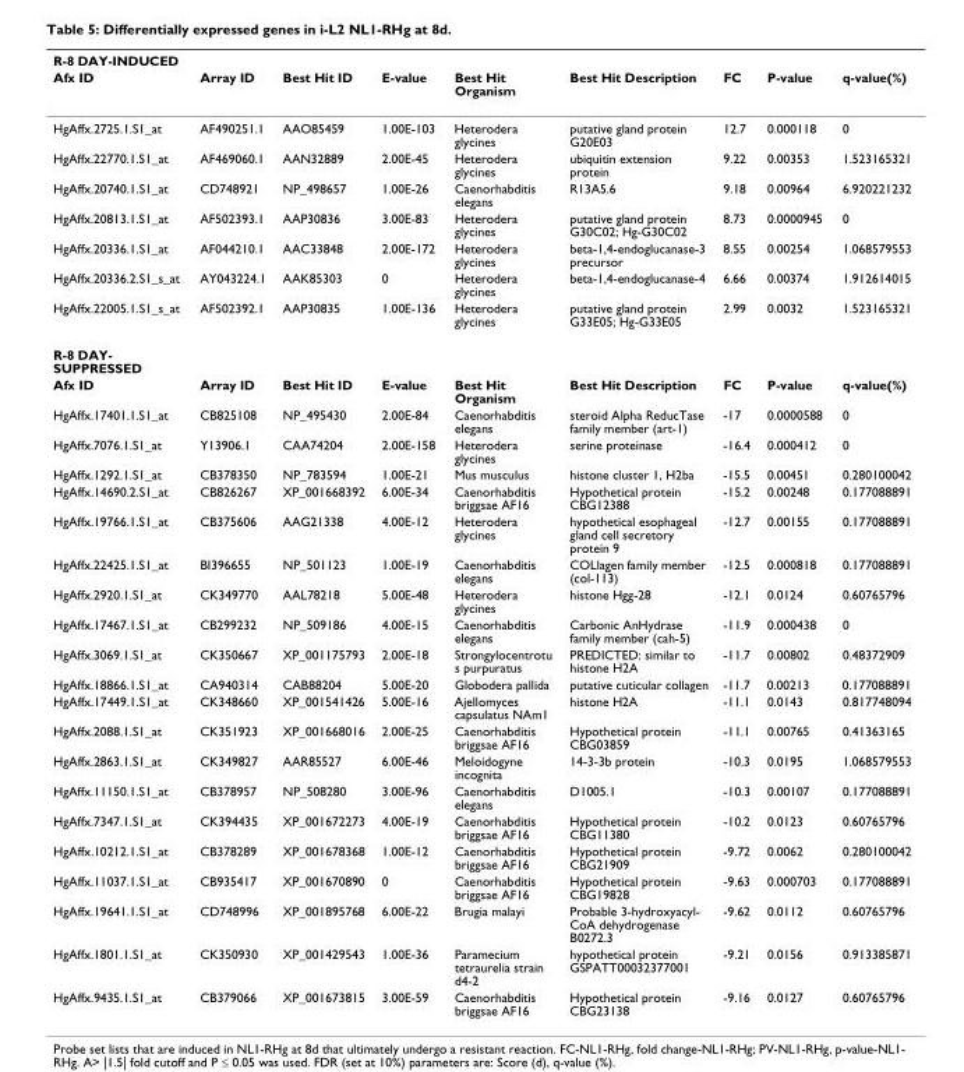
<table><thead><tr><td colspan="9">R-8 DAY-INDUCED</td></tr><tr><td>Afx ID</td><td>Array ID</td><td>Best Hit ID</td><td>E-value</td><td>Best Hit Organism</td><td>Best Hit Description</td><td>FC</td><td>P-value</td><td>q-value(%)</td></tr></thead><tbody><tr><td>HgAffx.2725.1.S1_at</td><td>AF490251.1</td><td>AAO85459</td><td>1.00E-103</td><td>Heterodera glycines</td><td>putative gland protein G20E03</td><td>12.7</td><td>0.000118</td><td>0</td></tr><tr><td>HgAffx.22770.1.S1_at</td><td>AF469060.1</td><td>AAN32889</td><td>2.00E-45</td><td>Heterodera glycines</td><td>ubiquitin extension protein</td><td>9.22</td><td>0.00353</td><td>1.523165321</td></tr><tr><td>HgAffx.20740.1.S1_at</td><td>CD748921</td><td>NP_498657</td><td>1.00E-26</td><td>Caenorhabditis elegans</td><td>R13A5.6</td><td>9.18</td><td>0.00964</td><td>6.920221232</td></tr><tr><td>HgAffx.20813.1.S1_at</td><td>AF502393.1</td><td>AAP30836</td><td>3.00E-83</td><td>Heterodera glycines</td><td>putative gland protein G30C02; Hg-G30C02</td><td>8.73</td><td>0.0000945</td><td>0</td></tr><tr><td>HgAffx.20336.1.S1_at</td><td>AF044210.1</td><td>AAC33848</td><td>2.00E-172</td><td>Heterodera glycines</td><td>beta-1,4-endoglucanase-3 precursor</td><td>8.55</td><td>0.00254</td><td>1.068579553</td></tr><tr><td>HgAffx.20336.2.S1_s_at</td><td>AY043224.1</td><td>AAK85303</td><td>0</td><td>Heterodera glycines</td><td>beta-1,4-endoglucanase-4</td><td>6.66</td><td>0.00374</td><td>1.912614015</td></tr><tr><td>HgAffx.22005.1.S1_s_at</td><td>AF502392.1</td><td>AAP30835</td><td>1.00E-136</td><td>Heterodera glycines</td><td>putative gland protein G33E05; Hg-G33E05</td><td>2.99</td><td>0.0032</td><td>1.523165321</td></tr><tr><td colspan="9">R-8 DAY- SUPPRESSED</td></tr><tr><td>Afx ID</td><td>Array ID</td><td>Best Hit ID</td><td>E-value</td><td>Best Hit Organism</td><td>Best Hit Description</td><td>FC</td><td>P-value</td><td>q-value(%)</td></tr><tr><td>HgAffx.17401.1.S1_at</td><td>CB825108</td><td>NP_495430</td><td>2.00E-84</td><td>Caenorhabditis elegans</td><td>steroid Alpha ReducTase family member (art-1)</td><td>-17</td><td>0.0000588</td><td>0</td></tr><tr><td>HgAffx.7076.1.S1_at</td><td>Y13906.1</td><td>CAA74204</td><td>2.00E-158</td><td>Heterodera glycines</td><td>serine proteinase</td><td>-16.4</td><td>0.000412</td><td>0</td></tr><tr><td>HgAffx.1292.1.S1_at</td><td>CB378350</td><td>NP_783594</td><td>1.00E-21</td><td>Mus musculus</td><td>histone cluster 1, H2ba</td><td>-15.5</td><td>0.00451</td><td>0.280100042</td></tr><tr><td>HgAffx.14690.2.S1_at</td><td>CB826267</td><td>XP_001668392</td><td>6.00E-34</td><td>Caenorhabditis briggsae AF16</td><td>Hypothetical protein CBG12388</td><td>-15.2</td><td>0.00248</td><td>0.177088891</td></tr><tr><td>HgAffx.19766.1.S1_at</td><td>CB375606</td><td>AAG21338</td><td>4.00E-12</td><td>Heterodera glycines</td><td>hypothetical esophageal gland cell secretory protein 9</td><td>-12.7</td><td>0.00155</td><td>0.177088891</td></tr><tr><td>HgAffx.22425.1.S1_at</td><td>BI396655</td><td>NP_501123</td><td>1.00E-19</td><td>Caenorhabditis elegans</td><td>COLlagen family member (col-113)</td><td>-12.5</td><td>0.000818</td><td>0.177088891</td></tr><tr><td>HgAffx.2920.1.S1_at</td><td>CK349770</td><td>AAL78218</td><td>5.00E-48</td><td>Heterodera glycines</td><td>histone Hgg-28</td><td>-12.1</td><td>0.0124</td><td>0.60765796</td></tr><tr><td>HgAffx.17467.1.S1_at</td><td>CB299232</td><td>NP_509186</td><td>4.00E-15</td><td>Caenorhabditis elegans</td><td>Carbonic AnHydrase family member (cah-5)</td><td>-11.9</td><td>0.000438</td><td>0</td></tr><tr><td>HgAffx.3069.1.S1_at</td><td>CK350667</td><td>XP_001175793</td><td>2.00E-18</td><td>Strongylocentrotu s purpuratus</td><td>PREDICTED: similar to histone H2A</td><td>-11.7</td><td>0.00802</td><td>0.48372909</td></tr><tr><td>HgAffx.18866.1.S1_at</td><td>CA940314</td><td>CAB88204</td><td>5.00E-20</td><td>Globodera pallida</td><td>putative cuticular collagen</td><td>-11.7</td><td>0.00213</td><td>0.177088891</td></tr><tr><td>HgAffx.17449.1.S1_at</td><td>CK348660</td><td>XP_001541426</td><td>5.00E-16</td><td>Ajellomyces capsulatus NAm1</td><td>histone H2A</td><td>-11.1</td><td>0.0143</td><td>0.817748094</td></tr><tr><td>HgAffx.2088.1.S1_at</td><td>CK351923</td><td>XP_001668016</td><td>2.00E-25</td><td>Caenorhabditis briggsae AF16</td><td>Hypothetical protein CBG03859</td><td>-11.1</td><td>0.00765</td><td>0.41363165</td></tr><tr><td>HgAffx.2863.1.S1_at</td><td>CK349827</td><td>AAR85527</td><td>6.00E-46</td><td>Meloidogyne incognita</td><td>14-3-3b protein</td><td>-10.3</td><td>0.0195</td><td>1.068579553</td></tr><tr><td>HgAffx.11150.1.S1_at</td><td>CB378957</td><td>NP_508280</td><td>3.00E-96</td><td>Caenorhabditis elegans</td><td>D1005.1</td><td>-10.3</td><td>0.00107</td><td>0.177088891</td></tr><tr><td>HgAffx.7347.1.S1_at</td><td>CK394435</td><td>XP_001672273</td><td>4.00E-19</td><td>Caenorhabditis briggsae AF16</td><td>Hypothetical protein CBG11380</td><td>-10.2</td><td>0.0123</td><td>0.60765796</td></tr><tr><td>HgAffx.10212.1.S1_at</td><td>CB378289</td><td>XP_001678368</td><td>1.00E-12</td><td>Caenorhabditis briggsae AF16</td><td>Hypothetical protein CBG21909</td><td>-9.72</td><td>0.0062</td><td>0.280100042</td></tr><tr><td>HgAffx.11037.1.S1_at</td><td>CB935417</td><td>XP_001670890</td><td>0</td><td>Caenorhabditis briggsae AF16</td><td>Hypothetical protein CBG19828</td><td>-9.63</td><td>0.000703</td><td>0.177088891</td></tr><tr><td>HgAffx.19641.1.S1_at</td><td>CD748996</td><td>XP_001895768</td><td>6.00E-22</td><td>Brugia malayi</td><td>Probable 3-hydroxyacyl- CoA dehydrogenase B0272.3</td><td>-9.62</td><td>0.0112</td><td>0.60765796</td></tr><tr><td>HgAffx.1801.1.S1_at</td><td>CK350930</td><td>XP_001429543</td><td>1.00E-36</td><td>Paramecium tetraurelia strain d4-2</td><td>hypothetical protein GSPATT00032377001</td><td>-9.21</td><td>0.0156</td><td>0.913385871</td></tr><tr><td>HgAffx.9435.1.S1_at</td><td>CB379066</td><td>XP_001673815</td><td>3.00E-59</td><td>Caenorhabditis briggsae AF16</td><td>Hypothetical protein CBG23138</td><td>-9.16</td><td>0.0127</td><td>0.60765796</td></tr></tbody></table>